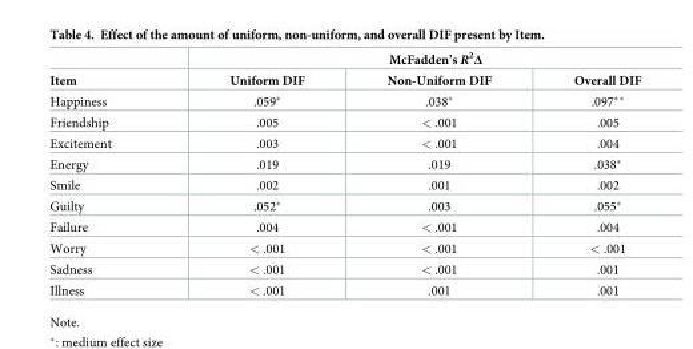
<table><thead><tr><td rowspan="2">Item</td><td colspan="3">McFadden’s R<sup>2</sup>Δ</td></tr><tr><td>Uniform DIF</td><td>Non-Uniform DIF</td><td>Overall DIF</td></tr></thead><tbody><tr><td>Happiness</td><td>.059*</td><td>.038*</td><td>.097**</td></tr><tr><td>Friendship</td><td>.005</td><td>&lt; .001</td><td>.005</td></tr><tr><td>Excitement</td><td>.003</td><td>&lt; .001</td><td>.004</td></tr><tr><td>Energy</td><td>.019</td><td>.019</td><td>.038*</td></tr><tr><td>Smile</td><td>.002</td><td>.001</td><td>.002</td></tr><tr><td>Guilty</td><td>.052*</td><td>.003</td><td>.055*</td></tr><tr><td>Failure</td><td>.004</td><td>&lt; .001</td><td>.004</td></tr><tr><td>Worry</td><td>&lt; .001</td><td>&lt; .001</td><td>&lt; .001</td></tr><tr><td>Sadness</td><td>&lt; .001</td><td>&lt; .001</td><td>.001</td></tr><tr><td>Illness</td><td>&lt; .001</td><td>.001</td><td>.001</td></tr></tbody></table>